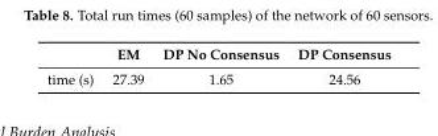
<table><thead><tr><td></td><td>EM</td><td>DP No Consensus</td><td>DP Consensus</td></tr></thead><tbody><tr><td>time (s)</td><td>27.39</td><td>1.65</td><td>24.56</td></tr></tbody></table>